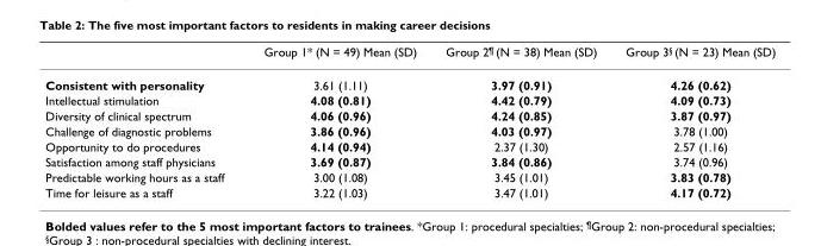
<table><thead><tr><td></td><td>Group 1* (N = 49) Mean (SD)</td><td>Group 2<sup>¶</sup> (N = 38) Mean (SD)</td><td>Group 3<sup>§</sup> (N = 23) Mean (SD)</td></tr></thead><tbody><tr><td>Consistent with personality</td><td>3.61 (1.11)</td><td>3.97 (0.91)</td><td>4.26 (0.62)</td></tr><tr><td>Intellectual stimulation</td><td>4.08 (0.81)</td><td>4.42 (0.79)</td><td>4.09 (0.73)</td></tr><tr><td>Diversity of clinical spectrum</td><td>4.06 (0.96)</td><td>4.24 (0.85)</td><td>3.87 (0.97)</td></tr><tr><td>Challenge of diagnostic problems</td><td>3.86 (0.96)</td><td>4.03 (0.97)</td><td>3.78 (1.00)</td></tr><tr><td>Opportunity to do procedures</td><td>4.14 (0.94)</td><td>2.37 (1.30)</td><td>2.57 (1.16)</td></tr><tr><td>Satisfaction among staff physicians</td><td>3.69 (0.87)</td><td>3.84 (0.86)</td><td>3.74 (0.96)</td></tr><tr><td>Predictable working hours as a staff</td><td>3.00 (1.08)</td><td>3.45 (1.01)</td><td>3.83 (0.78)</td></tr><tr><td>Time for leisure as a staff</td><td>3.22 (1.03)</td><td>3.47 (1.01)</td><td>4.17 (0.72)</td></tr></tbody></table>